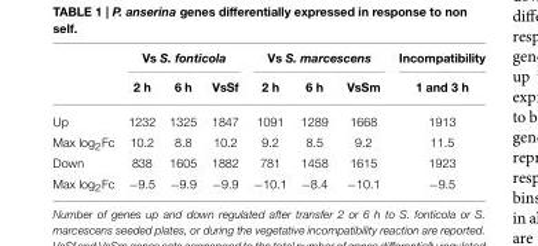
<table><thead><tr><td rowspan="2"></td><td colspan="3">Vs S. fonticola</td><td colspan="3">Vs S. marcescens</td><td rowspan="2">Incompatibility 1 and 3 h</td></tr><tr><td>2 h</td><td>6 h</td><td>VsSf</td><td>2 h</td><td>6 h</td><td>VsSm</td></tr></thead><tbody><tr><td>Up</td><td>1232</td><td>1325</td><td>1847</td><td>1091</td><td>1289</td><td>1668</td><td>1913</td></tr><tr><td>Max log<sub>2</sub>Fc</td><td>10.2</td><td>8.8</td><td>10.2</td><td>9.2</td><td>8.5</td><td>9.2</td><td>11.5</td></tr><tr><td>Down</td><td>838</td><td>1605</td><td>1882</td><td>781</td><td>1458</td><td>1615</td><td>1923</td></tr><tr><td>Max log<sub>2</sub>Fc</td><td>−9.5</td><td>−9.9</td><td>−9.9</td><td>−10.1</td><td>−8.4</td><td>−10.1</td><td>−9.5</td></tr></tbody></table>